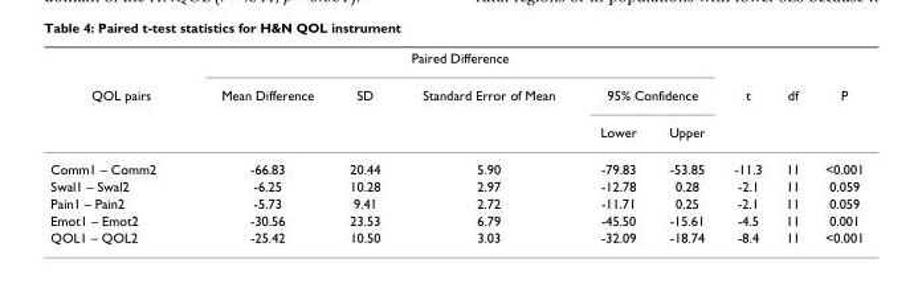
<table><thead><tr><td rowspan="3">QOL pairs</td><td colspan="5">Paired Difference</td><td rowspan="3">t</td><td rowspan="3">df</td><td rowspan="3">P</td></tr><tr><td rowspan="2">Mean Difference</td><td rowspan="2">SD</td><td rowspan="2">Standard Error of Mean</td><td colspan="2">95% Confidence</td></tr><tr><td>Lower</td><td>Upper</td></tr></thead><tbody><tr><td>Comm1 – Comm2</td><td>-66.83</td><td>20.44</td><td>5.90</td><td>-79.83</td><td>-53.85</td><td>-11.3</td><td>11</td><td>&lt;0.001</td></tr><tr><td>Swal1 – Swal2</td><td>-6.25</td><td>10.28</td><td>2.97</td><td>-12.78</td><td>0.28</td><td>-2.1</td><td>11</td><td>0.059</td></tr><tr><td>Pain1 – Pain2</td><td>-5.73</td><td>9.41</td><td>2.72</td><td>-11.71</td><td>0.25</td><td>-2.1</td><td>11</td><td>0.059</td></tr><tr><td>Emot1 – Emot2</td><td>-30.56</td><td>23.53</td><td>6.79</td><td>-45.50</td><td>-15.61</td><td>-4.5</td><td>11</td><td>0.001</td></tr><tr><td>QOL1 – QOL2</td><td>-25.42</td><td>10.50</td><td>3.03</td><td>-32.09</td><td>-18.74</td><td>-8.4</td><td>11</td><td>&lt;0.001</td></tr></tbody></table>